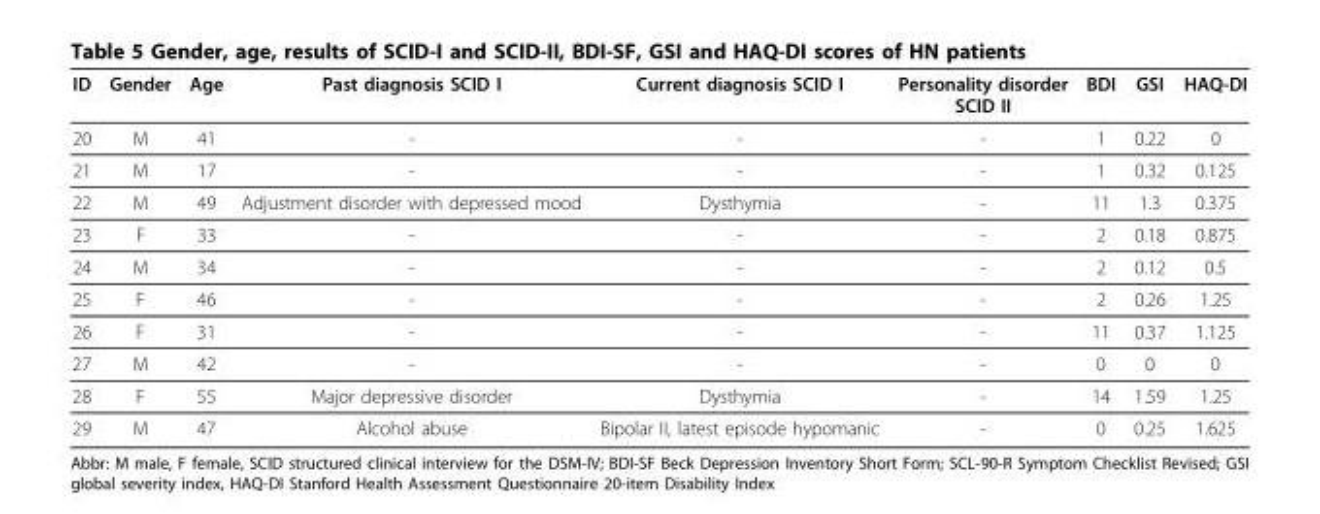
<table><thead><tr><td>ID</td><td>Gender</td><td>Age</td><td>Past diagnosis SCID I</td><td>Current diagnosis SCID I</td><td>Personality disorder SCID II</td><td>BDI</td><td>GSI</td><td>HAQ-DI</td></tr></thead><tbody><tr><td>20</td><td>M</td><td>41</td><td>-</td><td>-</td><td>-</td><td>1</td><td>0.22</td><td>0</td></tr><tr><td>21</td><td>M</td><td>17</td><td>-</td><td>-</td><td>-</td><td>1</td><td>0.32</td><td>0.125</td></tr><tr><td>22</td><td>M</td><td>49</td><td>Adjustment disorder with depressed mood</td><td>Dysthymia</td><td>-</td><td>11</td><td>1.3</td><td>0.375</td></tr><tr><td>23</td><td>F</td><td>33</td><td>-</td><td>-</td><td>-</td><td>2</td><td>0.18</td><td>0.875</td></tr><tr><td>24</td><td>M</td><td>34</td><td>-</td><td>-</td><td>-</td><td>2</td><td>0.12</td><td>0.5</td></tr><tr><td>25</td><td>F</td><td>46</td><td>-</td><td>-</td><td>-</td><td>2</td><td>0.26</td><td>1.25</td></tr><tr><td>26</td><td>F</td><td>31</td><td>-</td><td>-</td><td>-</td><td>11</td><td>0.37</td><td>1.125</td></tr><tr><td>27</td><td>M</td><td>42</td><td>-</td><td>-</td><td>-</td><td>0</td><td>0</td><td>0</td></tr><tr><td>28</td><td>F</td><td>55</td><td>Major depressive disorder</td><td>Dysthymia</td><td>-</td><td>14</td><td>1.59</td><td>1.25</td></tr><tr><td>29</td><td>M</td><td>47</td><td>Alcohol abuse</td><td>Bipolar II, latest episode hypomanic</td><td>-</td><td>0</td><td>0.25</td><td>1.625</td></tr></tbody></table>